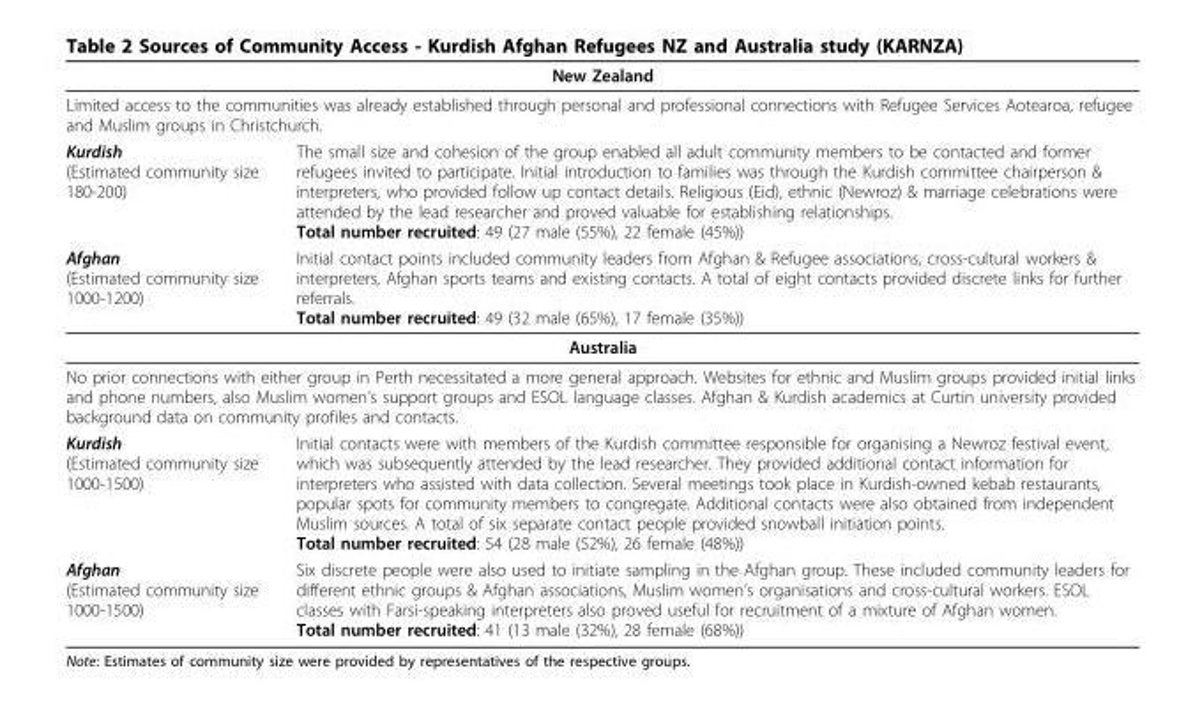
<table><thead><tr><td rowspan="2" colspan="2">New Zealand Limited access to the communities was already established through personal and professional connections with Refugee Services Aotearoa, refugee and Muslim groups in Christchurch.</td></tr><tr></tr><tr><td>Kurdish (Estimated community size 180-200)</td><td>The small size and cohesion of the group enabled all adult community members to be contacted and former refugees invited to participate. Initial introduction to families was through the Kurdish committee chairperson &amp; interpreters, who provided follow up contact details. Religious (Eid), ethnic (Newroz) &amp; marriage celebrations were attended by the lead researcher and proved valuable for establishing relationships. Total number recruited: 49 (27 male (55%), 22 female (45%))</td></tr></thead><tbody><tr><td>Afghan (Estimated community size 1000-1200)</td><td>Initial contact points included community leaders from Afghan &amp; Refugee associations, cross-cultural workers &amp; interpreters, Afghan sports teams and existing contacts. A total of eight contacts provided discrete links for further referrals. Total number recruited: 49 (32 male (65%), 17 female (35%))</td></tr><tr><td colspan="2">Australia</td></tr><tr><td colspan="2">No prior connections with either group in Perth necessitated a more general approach. Websites for ethnic and Muslim groups provided initial links and phone numbers, also Muslim women’s support groups and ESOL language classes. Afghan &amp; Kurdish academics at Curtin university provided background data on community profiles and contacts.</td></tr><tr><td>Kurdish (Estimated community size 1000-1500)</td><td>Initial contacts were with members of the Kurdish committee responsible for organising a Newroz festival event, which was subsequently attended by the lead researcher. They provided additional contact information for interpreters who assisted with data collection. Several meetings took place in Kurdish-owned kebab restaurants, popular spots for community members to congregate. Additional contacts were also obtained from independent Muslim sources. A total of six separate contact people provided snowball initiation points. Total number recruited: 54 (28 male (52%), 26 female (48%))</td></tr><tr><td>Afghan (Estimated community size 1000-1500)</td><td>Six discrete people were also used to initiate sampling in the Afghan group. These included community leaders for different ethnic groups &amp; Afghan associations, Muslim women’s organisations and cross-cultural workers. ESOL classes with Farsi-speaking interpreters also proved useful for recruitment of a mixture of Afghan women. Total number recruited: 41 (13 male (32%), 28 female (68%))</td></tr></tbody></table>